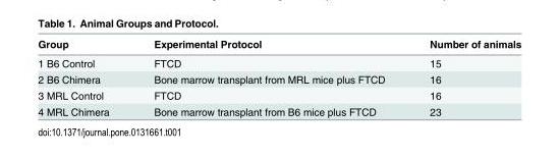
<table><thead><tr><td>Group</td><td>Experimental Protocol</td><td>Number of animals</td></tr></thead><tbody><tr><td>1 B6 Control</td><td>FTCD</td><td>15</td></tr><tr><td>2 B6 Chimera</td><td>Bone marrow transplant from MRL mice plus FTCD</td><td>16</td></tr><tr><td>3 MRL Control</td><td>FTCD</td><td>16</td></tr><tr><td>4 MRL Chimera</td><td>Bone marrow transplant from B6 mice plus FTCD</td><td>23</td></tr></tbody></table>